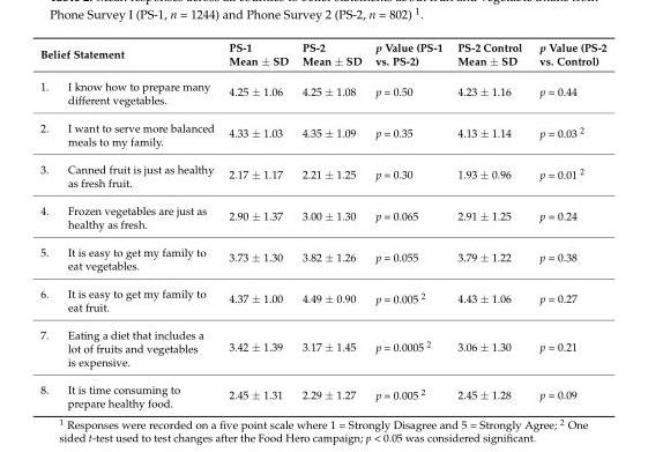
<table><thead><tr><td>Belief Statement</td><td>PS-1 Mean ± SD</td><td>PS-2 Mean ± SD</td><td>p Value (PS-1 vs. PS-2)</td><td>PS-2 Control Mean ± SD</td><td>p Value (PS-2 vs. Control)</td></tr></thead><tbody><tr><td>1. I know how to prepare many different vegetables.</td><td>4.25 ± 1.06</td><td>4.25 ± 1.08</td><td>p = 0.50</td><td>4.23 ± 1.16</td><td>p = 0.44</td></tr><tr><td>2. I want to serve more balanced meals to my family.</td><td>4.33 ± 1.03</td><td>4.35 ± 1.09</td><td>p = 0.35</td><td>4.13 ± 1.14</td><td>p = 0.03 <sup>2</sup></td></tr><tr><td>3. Canned fruit is just as healthy as fresh fruit.</td><td>2.17 ± 1.17</td><td>2.21 ± 1.25</td><td>p = 0.30</td><td>1.93 ± 0.96</td><td>p = 0.01 <sup>2</sup></td></tr><tr><td>4. Frozen vegetables are just as healthy as fresh.</td><td>2.90 ± 1.37</td><td>3.00 ± 1.30</td><td>p = 0.065</td><td>2.91 ± 1.25</td><td>p = 0.24</td></tr><tr><td>5. It is easy to get my family to eat vegetables.</td><td>3.73 ± 1.30</td><td>3.82 ± 1.26</td><td>p = 0.055</td><td>3.79 ± 1.22</td><td>p = 0.38</td></tr><tr><td>6. It is easy to get my family to eat fruit.</td><td>4.37 ± 1.00</td><td>4.49 ± 0.90</td><td>p = 0.005 <sup>2</sup></td><td>4.43 ± 1.06</td><td>p = 0.27</td></tr><tr><td>7. Eating a diet that includes a lot of fruits and vegetables is expensive.</td><td>3.42 ± 1.39</td><td>3.17 ± 1.45</td><td>p = 0.0005 <sup>2</sup></td><td>3.06 ± 1.30</td><td>p = 0.21</td></tr><tr><td>8. It is time consuming to prepare healthy food.</td><td>2.45 ± 1.31</td><td>2.29 ± 1.27</td><td>p = 0.005 <sup>2</sup></td><td>2.45 ± 1.28</td><td>p = 0.09</td></tr></tbody></table>